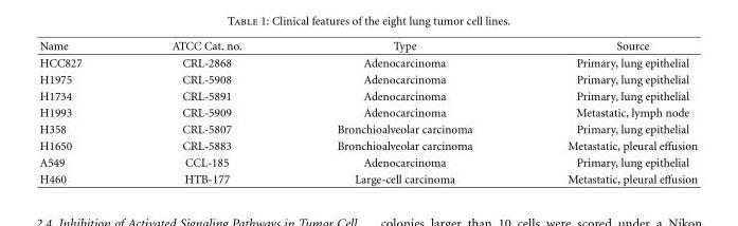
<table><thead><tr><td>Name</td><td>ATCC Cat. no.</td><td>Type</td><td>Source</td></tr></thead><tbody><tr><td>HCC827</td><td>CRL-2868</td><td>Adenocarcinoma</td><td>Primary, lung epithelial</td></tr><tr><td>H1975</td><td>CRL-5908</td><td>Adenocarcinoma</td><td>Primary, lung epithelial</td></tr><tr><td>H1734</td><td>CRL-5891</td><td>Adenocarcinoma</td><td>Primary, lung epithelial</td></tr><tr><td>H1993</td><td>CRL-5909</td><td>Adenocarcinoma</td><td>Metastatic, lymph node</td></tr><tr><td>H358</td><td>CRL-5807</td><td>Bronchioalveolar carcinoma</td><td>Primary, lung epithelial</td></tr><tr><td>H1650</td><td>CRL-5883</td><td>Bronchioalveolar carcinoma</td><td>Metastatic, pleural effusion</td></tr><tr><td>A549</td><td>CCL-185</td><td>Adenocarcinoma</td><td>Primary, lung epithelial</td></tr><tr><td>H460</td><td>HTB-177</td><td>Large-cell carcinoma</td><td>Metastatic, pleural effusion</td></tr></tbody></table>